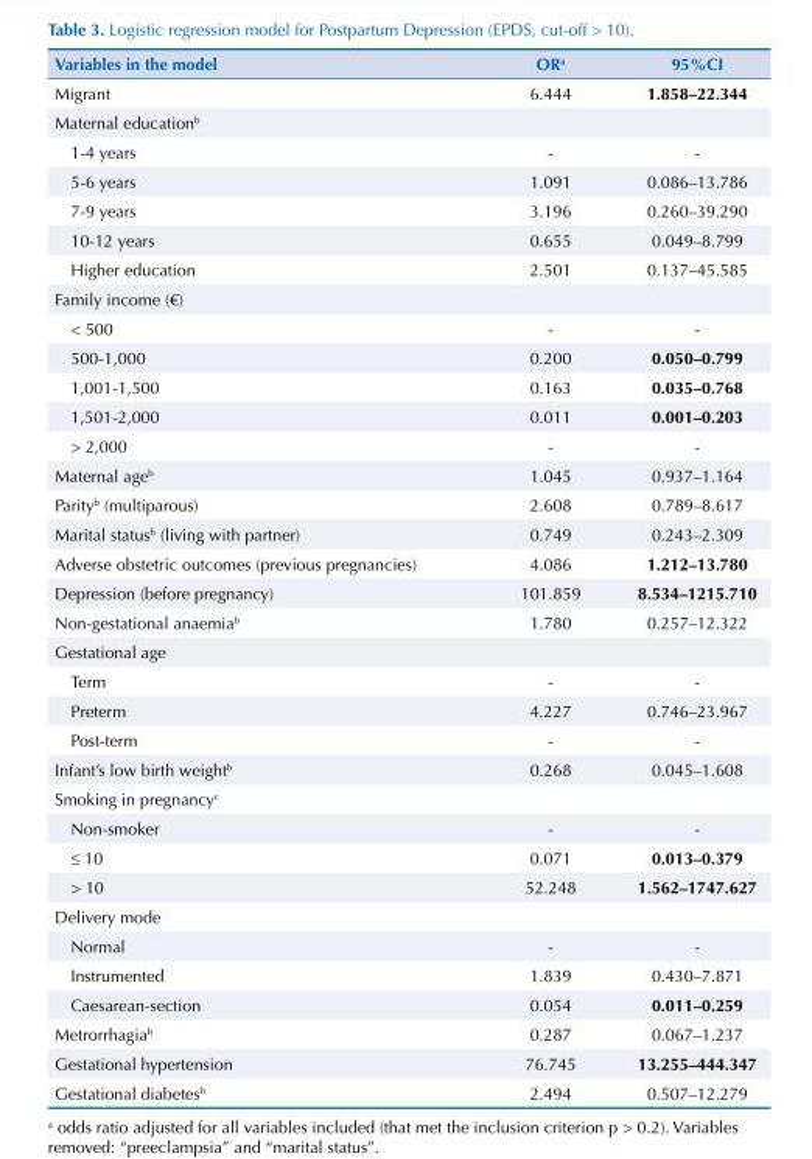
<table><thead><tr><td>Variables in the model</td><td>OR<sup>a</sup></td><td>95%CI</td></tr></thead><tbody><tr><td>Migrant</td><td>6.444</td><td>1.858–22.344</td></tr><tr><td colspan="3">Maternal education<sup>b</sup></td></tr><tr><td>1-4 years</td><td>-</td><td>-</td></tr><tr><td>5-6 years</td><td>1.091</td><td>0.086–13.786</td></tr><tr><td>7-9 years</td><td>3.196</td><td>0.260–39.290</td></tr><tr><td>10-12 years</td><td>0.655</td><td>0.049–8.799</td></tr><tr><td>Higher education</td><td>2.501</td><td>0.137–45.585</td></tr><tr><td colspan="3">Family income (€)</td></tr><tr><td>&lt; 500</td><td>-</td><td>-</td></tr><tr><td>500-1,000</td><td>0.200</td><td>0.050–0.799</td></tr><tr><td>1,001-1,500</td><td>0.163</td><td>0.035–0.768</td></tr><tr><td>1,501-2,000</td><td>0.011</td><td>0.001–0.203</td></tr><tr><td>&gt; 2,000</td><td>-</td><td>-</td></tr><tr><td>Maternal age<sup>b</sup></td><td>1.045</td><td>0.937–1.164</td></tr><tr><td>Parity<sup>b</sup> (multiparous)</td><td>2.608</td><td>0.789–8.617</td></tr><tr><td>Marital status<sup>b</sup> (living with partner)</td><td>0.749</td><td>0.243–2.309</td></tr><tr><td>Adverse obstetric outcomes (previous pregnancies)</td><td>4.086</td><td>1.212–13.780</td></tr><tr><td>Depression (before pregnancy)</td><td>101.859</td><td>8.534–1215.710</td></tr><tr><td>Non-gestational anaemia<sup>b</sup></td><td>1.780</td><td>0.257–12.322</td></tr><tr><td colspan="3">Gestational age</td></tr><tr><td>Term</td><td>-</td><td>-</td></tr><tr><td>Preterm</td><td>4.227</td><td>0.746–23.967</td></tr><tr><td>Post-term</td><td>-</td><td>-</td></tr><tr><td>Infant’s low birth weight<sup>b</sup></td><td>0.268</td><td>0.045–1.608</td></tr><tr><td colspan="3">Smoking in pregnancy<sup>c</sup></td></tr><tr><td>Non-smoker</td><td>-</td><td>-</td></tr><tr><td>≤ 10</td><td>0.071</td><td>0.013–0.379</td></tr><tr><td>&gt; 10</td><td>52.248</td><td>1.562–1747.627</td></tr><tr><td colspan="3">Delivery mode</td></tr><tr><td>Normal</td><td>-</td><td>-</td></tr><tr><td>Instrumented</td><td>1.839</td><td>0.430–7.871</td></tr><tr><td>Caesarean-section</td><td>0.054</td><td>0.011–0.259</td></tr><tr><td>Metrorrhagia<sup>b</sup></td><td>0.287</td><td>0.067–1.237</td></tr><tr><td>Gestational hypertension</td><td>76.745</td><td>13.255–444.347</td></tr><tr><td>Gestational diabetes<sup>b</sup></td><td>2.494</td><td>0.507–12.279</td></tr></tbody></table>